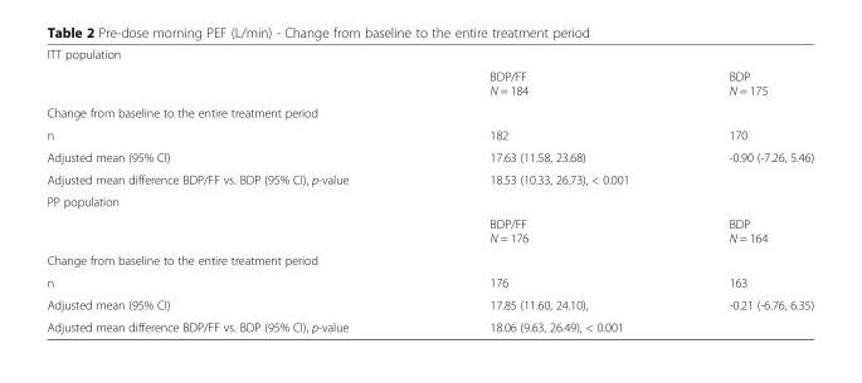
<table><tbody><tr><td colspan="3">ITT population</td></tr><tr><td></td><td>BDP/FF N = 184</td><td>BDP N = 175</td></tr><tr><td colspan="3">Change from baseline to the entire treatment period</td></tr><tr><td>n</td><td>182</td><td>170</td></tr><tr><td>Adjusted mean (95% CI)</td><td>17.63 (11.58, 23.68)</td><td>-0.90 (-7.26, 5.46)</td></tr><tr><td>Adjusted mean difference BDP/FF vs. BDP (95% CI), p-value</td><td colspan="2">18.53 (10.33, 26.73), &lt; 0.001</td></tr><tr><td colspan="3">PP population</td></tr><tr><td></td><td>BDP/FF N = 176</td><td>BDP N = 164</td></tr><tr><td colspan="3">Change from baseline to the entire treatment period</td></tr><tr><td>n</td><td>176</td><td>163</td></tr><tr><td>Adjusted mean (95% CI)</td><td>17.85 (11.60, 24.10),</td><td>-0.21 (-6.76, 6.35)</td></tr><tr><td>Adjusted mean difference BDP/FF vs. BDP (95% CI), p-value</td><td colspan="2">18.06 (9.63, 26.49), &lt; 0.001</td></tr></tbody></table>